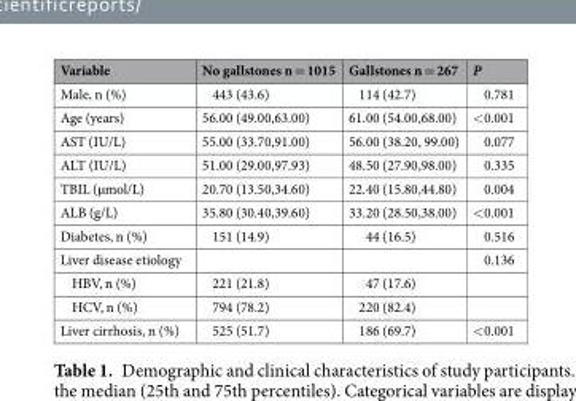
<table><thead><tr><td>Variable</td><td>No gallstones n = 1015</td><td>Gallstones n = 267</td><td>P</td></tr></thead><tbody><tr><td>Male, n (%)</td><td>443 (43.6)</td><td>114 (42.7)</td><td>0.781</td></tr><tr><td>Age (years)</td><td>56.00 (49.00,63.00)</td><td>61.00 (54.00,68.00)</td><td>&lt;0.001</td></tr><tr><td>AST (IU/L)</td><td>55.00 (33.70,91.00)</td><td>56.00 (38.20, 99.00)</td><td>0.077</td></tr><tr><td>ALT (IU/L)</td><td>51.00 (29.00,97.93)</td><td>48.50 (27.90,98.00)</td><td>0.335</td></tr><tr><td>TBIL (µmol/L)</td><td>20.70 (13.50,34.60)</td><td>22.40 (15.80,44.80)</td><td>0.004</td></tr><tr><td>ALB (g/L)</td><td>35.80 (30.40,39.60)</td><td>33.20 (28.50,38.00)</td><td>&lt;0.001</td></tr><tr><td>Diabetes, n (%)</td><td>151 (14.9)</td><td>44 (16.5)</td><td>0.516</td></tr><tr><td>Liver disease etiology</td><td></td><td></td><td>0.136</td></tr><tr><td>HBV, n (%)</td><td>221 (21.8)</td><td>47 (17.6)</td><td></td></tr><tr><td>HCV, n (%)</td><td>794 (78.2)</td><td>220 (82.4)</td><td></td></tr><tr><td>Liver cirrhosis, n (%)</td><td>525 (51.7)</td><td>186 (69.7)</td><td>&lt;0.001</td></tr></tbody></table>